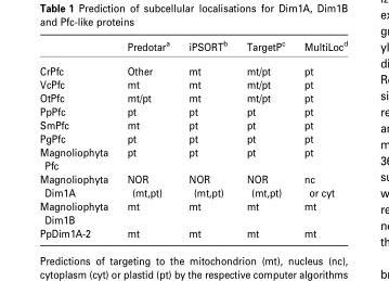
<table><thead><tr><td></td><td>Predotar<sup>a</sup></td><td>iPSORT<sup>b</sup></td><td>TargetP<sup>c</sup></td><td>MultiLoc<sup>d</sup></td></tr></thead><tbody><tr><td>CrPfc</td><td>Other</td><td>mt</td><td>mt/pt</td><td>pt</td></tr><tr><td>VcPfc</td><td>mt</td><td>mt</td><td>mt/pt</td><td>pt</td></tr><tr><td>OtPfc</td><td>mt/pt</td><td>mt</td><td>mt/pt</td><td>pt</td></tr><tr><td>PpPfc</td><td>pt</td><td>pt</td><td>pt</td><td>pt</td></tr><tr><td>SmPfc</td><td>mt</td><td>pt</td><td>pt</td><td>pt</td></tr><tr><td>PgPfc</td><td>pt</td><td>pt</td><td>pt</td><td>pt</td></tr><tr><td>Magnoliophyta Pfc</td><td>pt</td><td>pt</td><td>pt</td><td>pt</td></tr><tr><td>Magnoliophyta Dim1A</td><td>NOR (mt,pt)</td><td>NOR (mt,pt)</td><td>NOR (mt,pt)</td><td>nc or cyt</td></tr><tr><td>Magnoliophyta Dim1B</td><td>mt</td><td>mt</td><td>mt</td><td>mt</td></tr><tr><td>PpDim1A-2</td><td>mt</td><td>mt</td><td>mt</td><td>mt</td></tr></tbody></table>